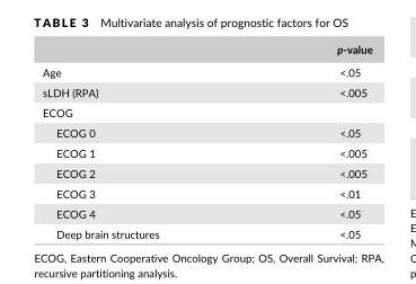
<table><thead><tr><td></td><td>p- value</td></tr></thead><tbody><tr><td>Age</td><td>&lt;.05</td></tr><tr><td>sLDH (RPA)</td><td>&lt;.005</td></tr><tr><td colspan="2">ECOG</td></tr><tr><td>ECOG 0</td><td>&lt;.05</td></tr><tr><td>ECOG 1</td><td>&lt;.005</td></tr><tr><td>ECOG 2</td><td>&lt;.005</td></tr><tr><td>ECOG 3</td><td>&lt;.01</td></tr><tr><td>ECOG 4</td><td>&lt;.05</td></tr><tr><td>Deep brain structures</td><td>&lt;.05</td></tr></tbody></table>